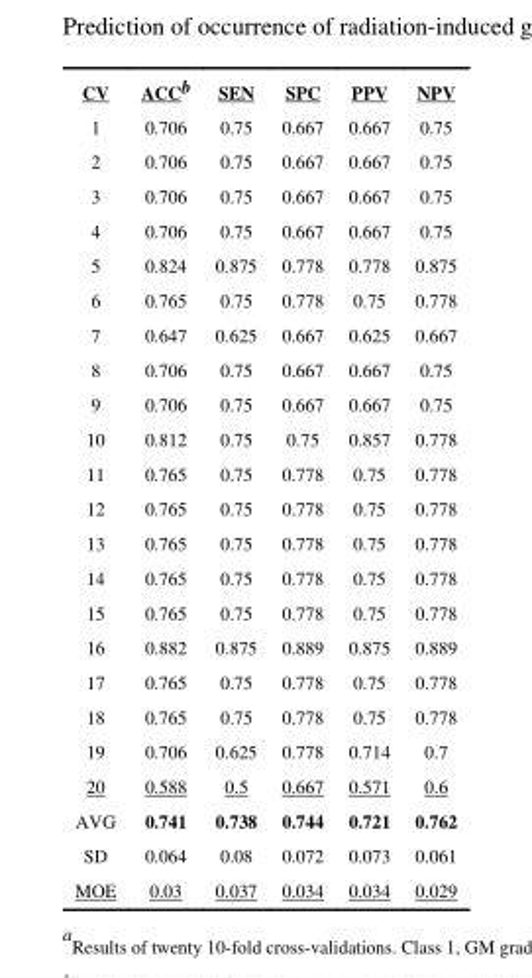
<table><thead><tr><td>CV</td><td>ACC<sup>b</sup></td><td>SEN</td><td>SPC</td><td>PPV</td><td>NPV</td></tr></thead><tbody><tr><td>1</td><td>0.706</td><td>0.75</td><td>0.667</td><td>0.667</td><td>0.75</td></tr><tr><td>2</td><td>0.706</td><td>0.75</td><td>0.667</td><td>0.667</td><td>0.75</td></tr><tr><td>3</td><td>0.706</td><td>0.75</td><td>0.667</td><td>0.667</td><td>0.75</td></tr><tr><td>4</td><td>0.706</td><td>0.75</td><td>0.667</td><td>0.667</td><td>0.75</td></tr><tr><td>5</td><td>0.824</td><td>0.875</td><td>0.778</td><td>0.778</td><td>0.875</td></tr><tr><td>6</td><td>0.765</td><td>0.75</td><td>0.778</td><td>0.75</td><td>0.778</td></tr><tr><td>7</td><td>0.647</td><td>0.625</td><td>0.667</td><td>0.625</td><td>0.667</td></tr><tr><td>8</td><td>0.706</td><td>0.75</td><td>0.667</td><td>0.667</td><td>0.75</td></tr><tr><td>9</td><td>0.706</td><td>0.75</td><td>0.667</td><td>0.667</td><td>0.75</td></tr><tr><td>10</td><td>0.812</td><td>0.75</td><td>0.75</td><td>0.857</td><td>0.778</td></tr><tr><td>11</td><td>0.765</td><td>0.75</td><td>0.778</td><td>0.75</td><td>0.778</td></tr><tr><td>12</td><td>0.765</td><td>0.75</td><td>0.778</td><td>0.75</td><td>0.778</td></tr><tr><td>13</td><td>0.765</td><td>0.75</td><td>0.778</td><td>0.75</td><td>0.778</td></tr><tr><td>14</td><td>0.765</td><td>0.75</td><td>0.778</td><td>0.75</td><td>0.778</td></tr><tr><td>15</td><td>0.765</td><td>0.75</td><td>0.778</td><td>0.75</td><td>0.778</td></tr><tr><td>16</td><td>0.882</td><td>0.875</td><td>0.889</td><td>0.875</td><td>0.889</td></tr><tr><td>17</td><td>0.765</td><td>0.75</td><td>0.778</td><td>0.75</td><td>0.778</td></tr><tr><td>18</td><td>0.765</td><td>0.75</td><td>0.778</td><td>0.75</td><td>0.778</td></tr><tr><td>19</td><td>0.706</td><td>0.625</td><td>0.778</td><td>0.714</td><td>0.7</td></tr><tr><td>20</td><td>0.588</td><td>0.5</td><td>0.667</td><td>0.571</td><td>0.6</td></tr><tr><td>AVG</td><td>0.741</td><td>0.738</td><td>0.744</td><td>0.721</td><td>0.762</td></tr><tr><td>SD</td><td>0.064</td><td>0.08</td><td>0.072</td><td>0.073</td><td>0.061</td></tr><tr><td>MOE</td><td>0.03</td><td>0.037</td><td>0.034</td><td>0.034</td><td>0.029</td></tr></tbody></table>